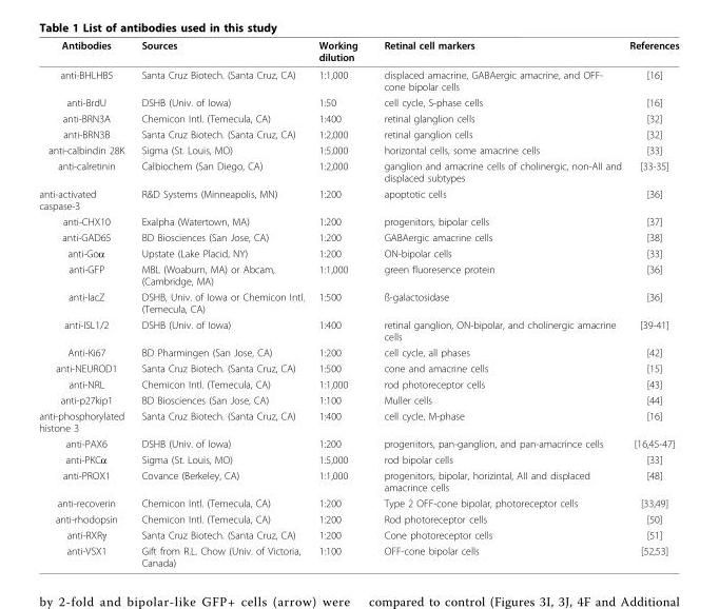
<table><thead><tr><td>Antibodies</td><td>Sources</td><td>Working dilution</td><td>Retinal cell markers</td><td>References</td></tr></thead><tbody><tr><td>anti-BHLHB5</td><td>Santa Cruz Biotech. (Santa Cruz, CA)</td><td>1:1,000</td><td>displaced amacrine, GABAergic amacrine, and OFF- cone bipolar cells</td><td>[16]</td></tr><tr><td>anti-BrdU</td><td>DSHB (Univ. of Iowa)</td><td>1:50</td><td>cell cycle, S-phase cells</td><td>[16]</td></tr><tr><td>anti-BRN3A</td><td>Chemicon Intl. (Temecula, CA)</td><td>1:400</td><td>retinal glanglion cells</td><td>[32]</td></tr><tr><td>anti-BRN3B</td><td>Santa Cruz Biotech. (Santa Cruz, CA)</td><td>1:2,000</td><td>retinal ganglion cells</td><td>[32]</td></tr><tr><td>anti-calbindin 28K</td><td>Sigma (St. Louis, MO)</td><td>1:5,000</td><td>horizontal cells, some amacrine cells</td><td>[33]</td></tr><tr><td>anti-calretinin</td><td>Calbiochem (San Diego, CA)</td><td>1:2,000</td><td>ganglion and amacrine cells of cholinergic, non-AII and displaced subtypes</td><td>[33-35]</td></tr><tr><td>anti-activated caspase-3</td><td>R&amp;D Systems (Minneapolis, MN)</td><td>1:200</td><td>apoptotic cells</td><td>[36]</td></tr><tr><td>anti-CHX10</td><td>Exalpha (Watertown, MA)</td><td>1:200</td><td>progenitors, bipolar cells</td><td>[37]</td></tr><tr><td>anti-GAD65</td><td>BD Biosciences (San Jose, CA)</td><td>1:200</td><td>GABAergic amacrine cells</td><td>[38]</td></tr><tr><td>anti-Goα</td><td>Upstate (Lake Placid, NY)</td><td>1:200</td><td>ON-bipolar cells</td><td>[33]</td></tr><tr><td>anti-GFP</td><td>MBL (Woaburn, MA) or Abcam, (Cambridge, MA)</td><td>1:1,000</td><td>green fluoresence protein</td><td>[36]</td></tr><tr><td>anti-lacZ</td><td>DSHB, Univ. of Iowa or Chemicon Intl. (Temecula, CA)</td><td>1:500</td><td>ß-galactosidase</td><td>[36]</td></tr><tr><td>anti-ISL1/2</td><td>DSHB (Univ. of Iowa)</td><td>1:400</td><td>retinal ganglion, ON-bipolar, and cholinergic amacrine cells</td><td>[39-41]</td></tr><tr><td>Anti-Ki67</td><td>BD Pharmingen (San Jose, CA)</td><td>1:200</td><td>cell cycle, all phases</td><td>[42]</td></tr><tr><td>anti-NEUROD1</td><td>Santa Cruz Biotech. (Santa Cruz, CA)</td><td>1:500</td><td>cone and amacrine cells</td><td>[15]</td></tr><tr><td>anti-NRL</td><td>Chemicon Intl. (Temecula, CA)</td><td>1:1,000</td><td>rod photoreceptor cells</td><td>[43]</td></tr><tr><td>anti-p27kip1</td><td>BD Biosciences (San Jose, CA)</td><td>1:100</td><td>Muller cells</td><td>[44]</td></tr><tr><td>anti-phosphorylated histone 3</td><td>Santa Cruz Biotech. (Santa Cruz, CA)</td><td>1:400</td><td>cell cycle, M-phase</td><td>[16]</td></tr><tr><td>anti-PAX6</td><td>DSHB (Univ. of Iowa)</td><td>1:200</td><td>progenitors, pan-ganglion, and pan-amacrince cells</td><td>[16,45-47]</td></tr><tr><td>anti-PKCα</td><td>Sigma (St. Louis, MO)</td><td>1:5,000</td><td>rod bipolar cells</td><td>[33]</td></tr><tr><td>anti-PROX1</td><td>Covance (Berkeley, CA)</td><td>1:1,000</td><td>progenitors, bipolar, horizintal, AII and displaced amacrince cells</td><td>[48]</td></tr><tr><td>anti-recoverin</td><td>Chemicon Intl. (Temecula, CA)</td><td>1:200</td><td>Type 2 OFF-cone bipolar, photoreceptor cells</td><td>[33,49]</td></tr><tr><td>anti-rhodopsin</td><td>Chemicon Intl. (Temecula, CA)</td><td>1:200</td><td>Rod photoreceptor cells</td><td>[50]</td></tr><tr><td>anti-RXRγ</td><td>Santa Cruz Biotech. (Santa Cruz, CA)</td><td>1:200</td><td>Cone photoreceptor cells</td><td>[51]</td></tr><tr><td>anti-VSX1</td><td>Gift from R.L. Chow (Univ. of Victoria, Canada)</td><td>1:100</td><td>OFF-cone bipolar cells</td><td>[52,53]</td></tr></tbody></table>